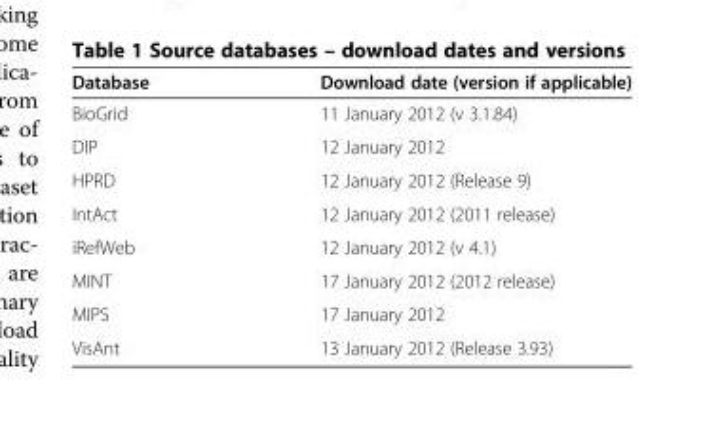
<table><thead><tr><td>Database</td><td>Download date (version if applicable)</td></tr></thead><tbody><tr><td>BioGrid</td><td>11 January 2012 (v 3.1.84)</td></tr><tr><td>DIP</td><td>12 January 2012</td></tr><tr><td>HPRD</td><td>12 January 2012 (Release 9)</td></tr><tr><td>IntAct</td><td>12 January 2012 (2011 release)</td></tr><tr><td>iRefWeb</td><td>12 January 2012 (v 4.1)</td></tr><tr><td>MINT</td><td>17 January 2012 (2012 release)</td></tr><tr><td>MIPS</td><td>17 January 2012</td></tr><tr><td>VisAnt</td><td>13 January 2012 (Release 3.93)</td></tr></tbody></table>